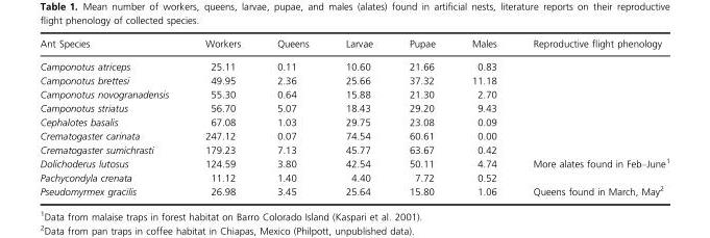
<table><thead><tr><td>Ant Species</td><td>Workers</td><td>Queens</td><td>Larvae</td><td>Pupae</td><td>Males</td><td>Reproductive flight phenology</td></tr></thead><tbody><tr><td>Camponotus atriceps</td><td>25.11</td><td>0.11</td><td>10.60</td><td>21.66</td><td>0.83</td><td></td></tr><tr><td>Camponotus brettesi</td><td>49.95</td><td>2.36</td><td>25.66</td><td>37.32</td><td>11.18</td><td></td></tr><tr><td>Camponotus novogranadensis</td><td>55.30</td><td>0.64</td><td>15.88</td><td>21.30</td><td>2.70</td><td></td></tr><tr><td>Camponotus striatus</td><td>56.70</td><td>5.07</td><td>18.43</td><td>29.20</td><td>9.43</td><td></td></tr><tr><td>Cephalotes basalis</td><td>67.08</td><td>1.03</td><td>29.75</td><td>23.08</td><td>0.09</td><td></td></tr><tr><td>Crematogaster carinata</td><td>247.12</td><td>0.07</td><td>74.54</td><td>60.61</td><td>0.00</td><td></td></tr><tr><td>Crematogaster sumichrasti</td><td>179.23</td><td>7.13</td><td>45.77</td><td>63.67</td><td>0.42</td><td></td></tr><tr><td>Dolichoderus lutosus</td><td>124.59</td><td>3.80</td><td>42.54</td><td>50.11</td><td>4.74</td><td>More alates found in Feb–June<sup>1</sup></td></tr><tr><td>Pachycondyla crenata</td><td>11.12</td><td>1.40</td><td>4.40</td><td>7.72</td><td>0.52</td><td></td></tr><tr><td>Pseudomyrmex gracilis</td><td>26.98</td><td>3.45</td><td>25.64</td><td>15.80</td><td>1.06</td><td>Queens found in March, May<sup>2</sup></td></tr></tbody></table>